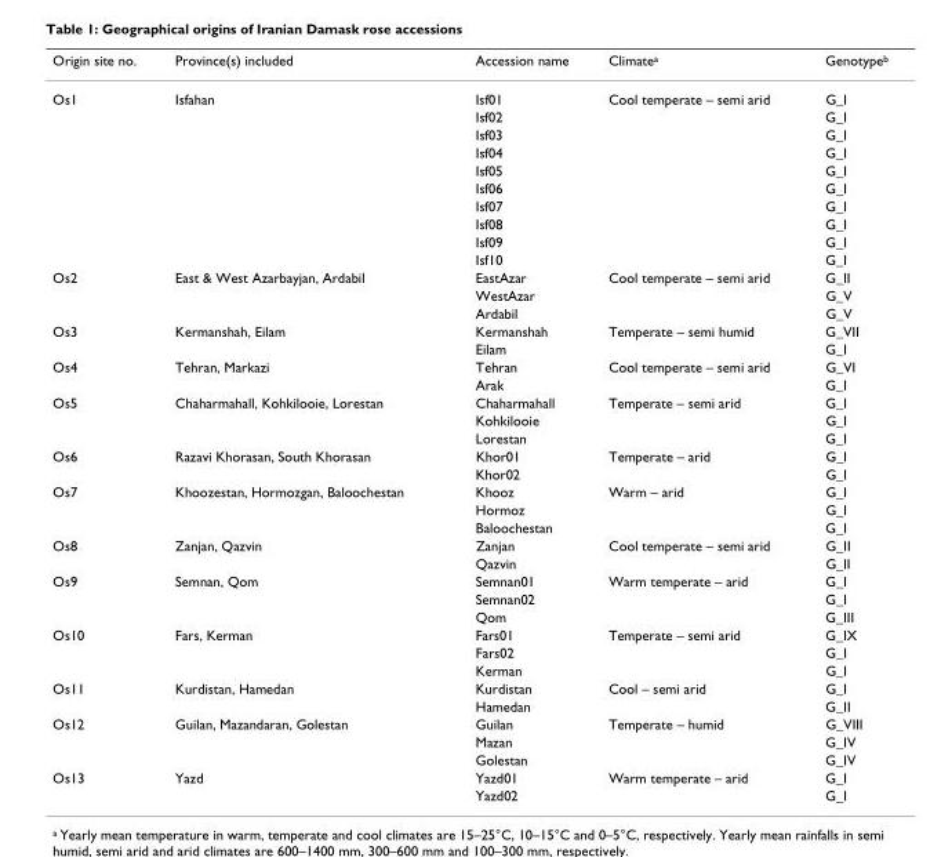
<table><thead><tr><td>Origin site no.</td><td>Province(s) included</td><td>Accession name</td><td>Climatea</td><td>Genotypeb</td></tr></thead><tbody><tr><td rowspan="10">Os1</td><td>Isfahan</td><td>Isf01</td><td>Cool temperate – semi arid</td><td>G_I</td></tr><tr><td></td><td>Isf02</td><td></td><td>G_I</td></tr><tr><td></td><td>Isf03</td><td></td><td>G_I</td></tr><tr><td></td><td>Isf04</td><td></td><td>G_I</td></tr><tr><td></td><td>Isf05</td><td></td><td>G_I</td></tr><tr><td></td><td>Isf06</td><td></td><td>G_I</td></tr><tr><td></td><td>Isf07</td><td></td><td>G_I</td></tr><tr><td></td><td>Isf08</td><td></td><td>G_I</td></tr><tr><td></td><td>Isf09</td><td></td><td>G_I</td></tr><tr><td></td><td>Isf10</td><td></td><td>G_I</td></tr><tr><td rowspan="3">Os2</td><td>East &amp; West Azarbayjan, Ardabil</td><td>EastAzar</td><td>Cool temperate – semi arid</td><td>G_II</td></tr><tr><td></td><td>WestAzar</td><td></td><td>G_V</td></tr><tr><td></td><td>Ardabil</td><td></td><td>G_V</td></tr><tr><td rowspan="2">Os3</td><td>Kermanshah, Eilam</td><td>Kermanshah</td><td>Temperate – semi humid</td><td>G_VII</td></tr><tr><td></td><td>Eilam</td><td></td><td>G_I</td></tr><tr><td rowspan="2">Os4</td><td>Tehran, Markazi</td><td>Tehran</td><td>Cool temperate – semi arid</td><td>G_VI</td></tr><tr><td></td><td>Arak</td><td></td><td>G_I</td></tr><tr><td rowspan="3">Os5</td><td>Chaharmahall, Kohkilooie, Lorestan</td><td>Chaharmahall</td><td>Temperate – semi arid</td><td>G_I</td></tr><tr><td></td><td>Kohkilooie</td><td></td><td>G_I</td></tr><tr><td></td><td>Lorestan</td><td></td><td>G_I</td></tr><tr><td rowspan="2">Os6</td><td>Razavi Khorasan, South Khorasan</td><td>Khor01</td><td>Temperate – arid</td><td>G_I</td></tr><tr><td></td><td>Khor02</td><td></td><td>G_I</td></tr><tr><td rowspan="3">Os7</td><td>Khoozestan, Hormozgan, Baloochestan</td><td>Khooz</td><td>Warm – arid</td><td>G_I</td></tr><tr><td></td><td>Hormoz</td><td></td><td>G_I</td></tr><tr><td></td><td>Baloochestan</td><td></td><td>G_I</td></tr><tr><td rowspan="2">Os8</td><td>Zanjan, Qazvin</td><td>Zanjan</td><td>Cool temperate – semi arid</td><td>G_II</td></tr><tr><td></td><td>Qazvin</td><td></td><td>G_II</td></tr><tr><td rowspan="3">Os9</td><td>Semnan, Qom</td><td>Semnan01</td><td>Warm temperate – arid</td><td>G_I</td></tr><tr><td></td><td>Semnan02</td><td></td><td>G_I</td></tr><tr><td></td><td>Qom</td><td></td><td>G_III</td></tr><tr><td rowspan="3">Os10</td><td>Fars, Kerman</td><td>Fars01</td><td>Temperate – semi arid</td><td>G_IX</td></tr><tr><td></td><td>Fars02</td><td></td><td>G_I</td></tr><tr><td></td><td>Kerman</td><td></td><td>G_I</td></tr><tr><td rowspan="2">Os11</td><td>Kurdistan, Hamedan</td><td>Kurdistan</td><td>Cool – semi arid</td><td>G_I</td></tr><tr><td></td><td>Hamedan</td><td></td><td>G_II</td></tr><tr><td rowspan="3">Os12</td><td>Guilan, Mazandaran, Golestan</td><td>Guilan</td><td>Temperate – humid</td><td>G_VIII</td></tr><tr><td></td><td>Mazan</td><td></td><td>G_IV</td></tr><tr><td></td><td>Golestan</td><td></td><td>G_IV</td></tr><tr><td rowspan="2">Os13</td><td>Yazd</td><td>Yazd01</td><td>Warm temperate – arid</td><td>G_I</td></tr><tr><td></td><td>Yazd02</td><td></td><td>G_I</td></tr></tbody></table>